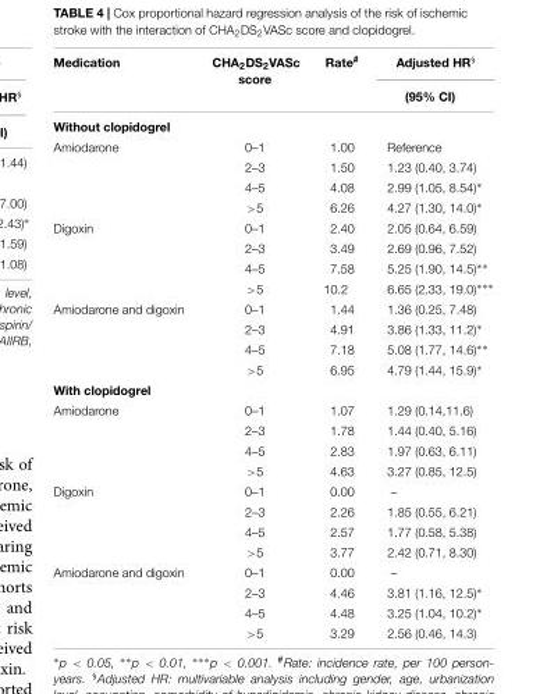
<table><thead><tr><td rowspan="2">Medication</td><td rowspan="2">CHA<sub>2</sub>DS<sub>2</sub>VASc score</td><td rowspan="2">Rate<sup>#</sup></td><td rowspan="2">Adjusted HR<sup>§</sup> (95% CI)</td></tr><tr></tr></thead><tbody><tr><td colspan="4">Without clopidogrel</td></tr><tr><td rowspan="4">Amiodarone</td><td>0–1</td><td>1.00</td><td>Reference</td></tr><tr><td>2–3</td><td>1.50</td><td>1.23 (0.40, 3.74)</td></tr><tr><td>4–5</td><td>4.08</td><td>2.99 (1.05, 8.54)∗</td></tr><tr><td>&gt;5</td><td>6.26</td><td>4.27 (1.30, 14.0)∗</td></tr><tr><td rowspan="4">Digoxin</td><td>0–1</td><td>2.40</td><td>2.05 (0.64, 6.59)</td></tr><tr><td>2–3</td><td>3.49</td><td>2.69 (0.96, 7.52)</td></tr><tr><td>4–5</td><td>7.58</td><td>5.25 (1.90, 14.5)∗∗</td></tr><tr><td>&gt;5</td><td>10.2</td><td>6.65 (2.33, 19.0)∗∗∗</td></tr><tr><td rowspan="4">Amiodarone and digoxin</td><td>0–1</td><td>1.44</td><td>1.36 (0.25, 7.48)</td></tr><tr><td>2–3</td><td>4.91</td><td>3.86 (1.33, 11.2)∗</td></tr><tr><td>4–5</td><td>7.18</td><td>5.08 (1.77, 14.6)∗∗</td></tr><tr><td>&gt;5</td><td>6.95</td><td>4.79 (1.44, 15.9)∗</td></tr><tr><td colspan="4">With clopidogrel</td></tr><tr><td rowspan="4">Amiodarone</td><td>0–1</td><td>1.07</td><td>1.29 (0.14,11.6)</td></tr><tr><td>2–3</td><td>1.78</td><td>1.44 (0.40, 5.16)</td></tr><tr><td>4–5</td><td>2.83</td><td>1.97 (0.63, 6.11)</td></tr><tr><td>&gt;5</td><td>4.63</td><td>3.27 (0.85, 12.5)</td></tr><tr><td rowspan="4">Digoxin</td><td>0–1</td><td>0.00</td><td>–</td></tr><tr><td>2–3</td><td>2.26</td><td>1.85 (0.55, 6.21)</td></tr><tr><td>4–5</td><td>2.57</td><td>1.77 (0.58, 5.38)</td></tr><tr><td>&gt;5</td><td>3.77</td><td>2.42 (0.71, 8.30)</td></tr><tr><td rowspan="4">Amiodarone and digoxin</td><td>0–1</td><td>0.00</td><td>–</td></tr><tr><td>2–3</td><td>4.46</td><td>3.81 (1.16, 12.5)∗</td></tr><tr><td>4–5</td><td>4.48</td><td>3.25 (1.04, 10.2)∗</td></tr><tr><td>&gt;5</td><td>3.29</td><td>2.56 (0.46, 14.3)</td></tr></tbody></table>